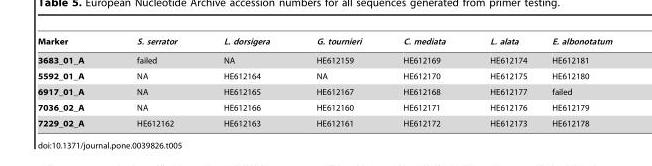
<table><thead><tr><td>Marker</td><td>S. serrator</td><td>L. dorsigera</td><td>G. tournieri</td><td>C. mediata</td><td>L. alata</td><td>E. albonotatum</td></tr></thead><tbody><tr><td>3683_01_A</td><td>failed</td><td>NA</td><td>HE612159</td><td>HE612169</td><td>HE612174</td><td>HE612181</td></tr><tr><td>5592_01_A</td><td>NA</td><td>HE612164</td><td>NA</td><td>HE612170</td><td>HE612175</td><td>HE612180</td></tr><tr><td>6917_01_A</td><td>NA</td><td>HE612165</td><td>HE612167</td><td>HE612168</td><td>HE612177</td><td>failed</td></tr><tr><td>7036_02_A</td><td>NA</td><td>HE612166</td><td>HE612160</td><td>HE612171</td><td>HE612176</td><td>HE612179</td></tr><tr><td>7229_02_A</td><td>HE612162</td><td>HE612163</td><td>HE612161</td><td>HE612172</td><td>HE612173</td><td>HE612178</td></tr></tbody></table>